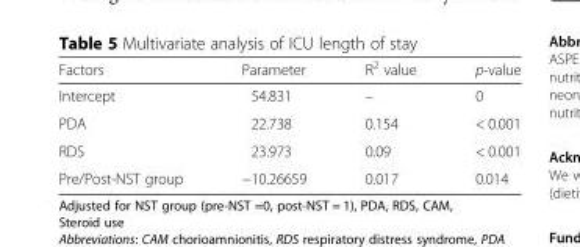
<table><thead><tr><td>Factors</td><td>Parameter</td><td>R<sup>2</sup> value</td><td>p-value</td></tr></thead><tbody><tr><td>Intercept</td><td>54.831</td><td>–</td><td>0</td></tr><tr><td>PDA</td><td>22.738</td><td>0.154</td><td>&lt; 0.001</td></tr><tr><td>RDS</td><td>23.973</td><td>0.09</td><td>&lt; 0.001</td></tr><tr><td>Pre/Post-NST group</td><td>−10.26659</td><td>0.017</td><td>0.014</td></tr></tbody></table>